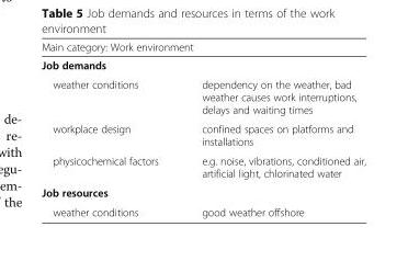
<table><thead><tr><td rowspan="2" colspan="2">Main category: Work environment Job demands</td></tr><tr></tr><tr><td>weather conditions</td><td>dependency on the weather, bad weather causes work interruptions, delays and waiting times</td></tr></thead><tbody><tr><td>workplace design</td><td>confined spaces on platforms and installations</td></tr><tr><td>physicochemical factors</td><td>e.g. noise, vibrations, conditioned air, artificial light, chlorinated water</td></tr><tr><td colspan="2">Job resources</td></tr><tr><td>weather conditions</td><td>good weather offshore</td></tr></tbody></table>